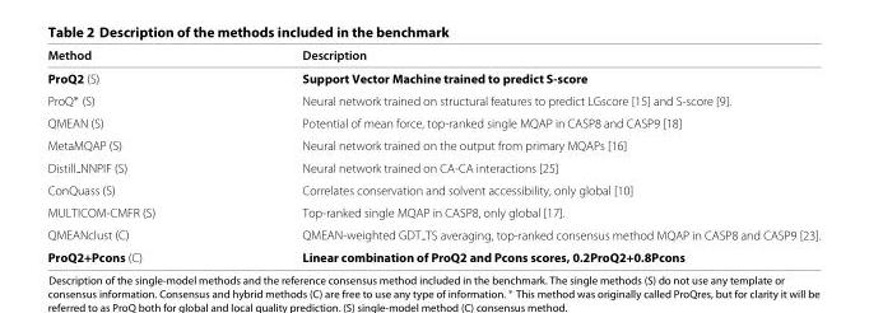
<table><thead><tr><td>Method</td><td>Description</td></tr></thead><tbody><tr><td>ProQ2 (S)</td><td>Support Vector Machine trained to predict S-score</td></tr><tr><td>ProQ∗ (S)</td><td>Neural network trained on structural features to predict LGscore [15] and S-score [9].</td></tr><tr><td>QMEAN (S)</td><td>Potential of mean force, top-ranked single MQAP in CASP8 and CASP9 [18]</td></tr><tr><td>MetaMQAP (S)</td><td>Neural network trained on the output from primary MQAPs [16]</td></tr><tr><td>Distill NNPIF (S)</td><td>Neural network trained on CA-CA interactions [25]</td></tr><tr><td>ConQuass (S)</td><td>Correlates conservation and solvent accessibility, only global [10]</td></tr><tr><td>MULTICOM-CMFR (S)</td><td>Top-ranked single MQAP in CASP8, only global [17].</td></tr><tr><td>QMEANclust (C)</td><td>QMEAN-weighted GDT TS averaging, top-ranked consensus method MQAP in CASP8 and CASP9 [23].</td></tr><tr><td>ProQ2+Pcons (C)</td><td>Linear combination of ProQ2 and Pcons scores, 0.2ProQ2+0.8Pcons</td></tr></tbody></table>